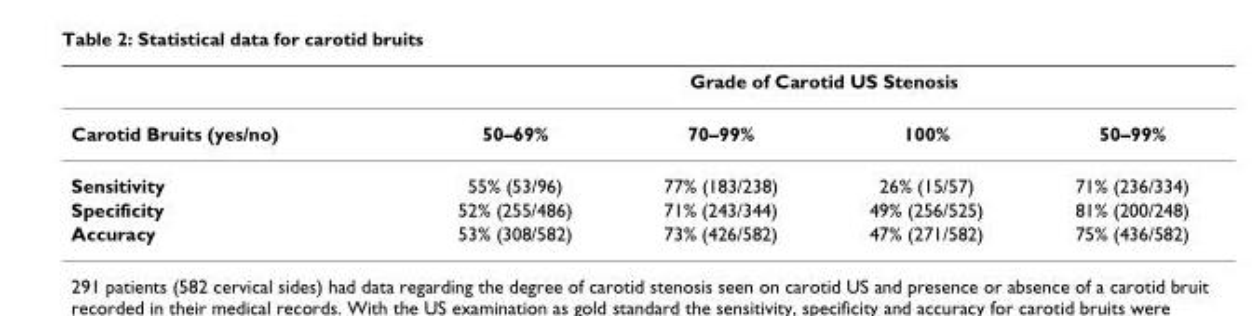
<table><thead><tr><td rowspan="2">Carotid Bruits (yes/no)</td><td colspan="4">Grade of Carotid US Stenosis</td></tr><tr><td>50–69%</td><td>70–99%</td><td>100%</td><td>50–99%</td></tr></thead><tbody><tr><td>Sensitivity</td><td>55% (53/96)</td><td>77% (183/238)</td><td>26% (15/57)</td><td>71% (236/334)</td></tr><tr><td>Specificity</td><td>52% (255/486)</td><td>71% (243/344)</td><td>49% (256/525)</td><td>81% (200/248)</td></tr><tr><td>Accuracy</td><td>53% (308/582)</td><td>73% (426/582)</td><td>47% (271/582)</td><td>75% (436/582)</td></tr></tbody></table>